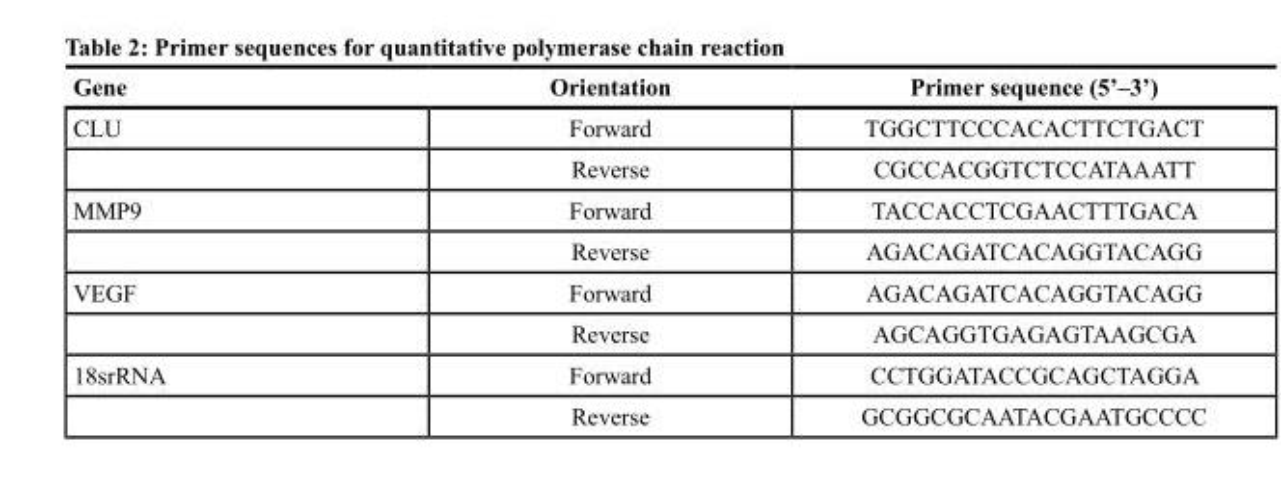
<table><thead><tr><td>Gene</td><td>Orientation</td><td>Primer sequence (5’–3’)</td></tr></thead><tbody><tr><td rowspan="2">CLU</td><td>Forward</td><td>TGGCTTCCCACACTTCTGACT</td></tr><tr><td>Reverse</td><td>CGCCACGGTCTCCATAAATT</td></tr><tr><td rowspan="2">MMP9</td><td>Forward</td><td>TACCACCTCGAACTTTGACA</td></tr><tr><td>Reverse</td><td>AGACAGATCACAGGTACAGG</td></tr><tr><td rowspan="2">VEGF</td><td>Forward</td><td>AGACAGATCACAGGTACAGG</td></tr><tr><td>Reverse</td><td>AGCAGGTGAGAGTAAGCGA</td></tr><tr><td rowspan="2">18srRNA</td><td>Forward</td><td>CCTGGATACCGCAGCTAGGA</td></tr><tr><td>Reverse</td><td>GCGGCGCAATACGAATGCCCC</td></tr></tbody></table>